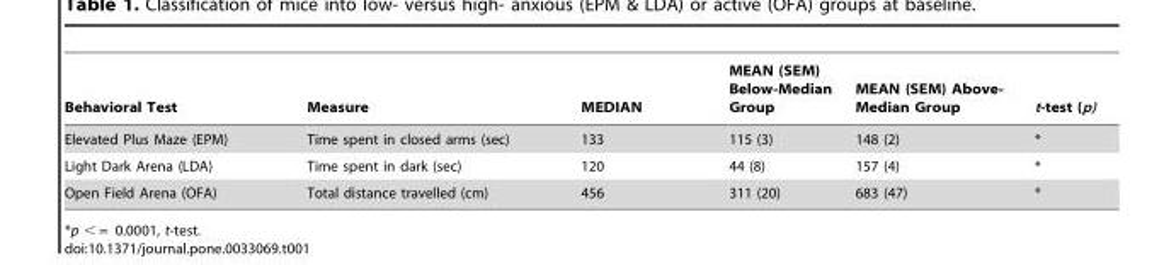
<table><thead><tr><td>Behavioral Test</td><td>Measure</td><td>MEDIAN</td><td>MEAN (SEM) Below-Median Group</td><td>MEAN (SEM) Above- Median Group</td><td>t-test (p)</td></tr></thead><tbody><tr><td>Elevated Plus Maze (EPM)</td><td>Time spent in closed arms (sec)</td><td>133</td><td>115 (3)</td><td>148 (2)</td><td>*</td></tr><tr><td>Light Dark Arena (LDA)</td><td>Time spent in dark (sec)</td><td>120</td><td>44 (8)</td><td>157 (4)</td><td>*</td></tr><tr><td>Open Field Arena (OFA)</td><td>Total distance travelled (cm)</td><td>456</td><td>311 (20)</td><td>683 (47)</td><td>*</td></tr></tbody></table>